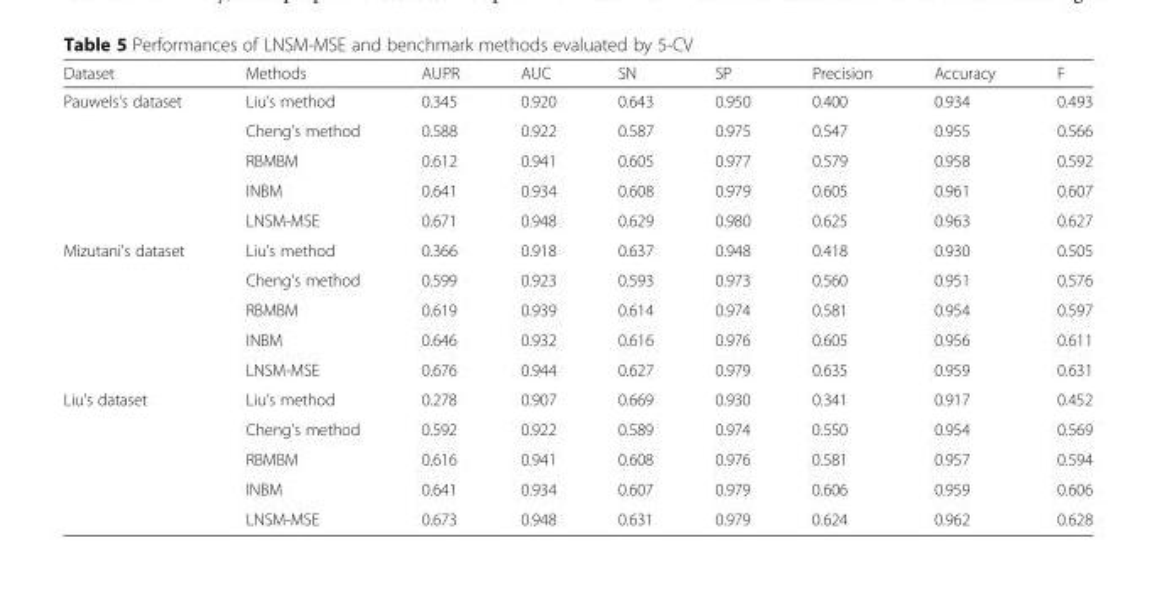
<table><thead><tr><td>Dataset</td><td>Methods</td><td>AUPR</td><td>AUC</td><td>SN</td><td>SP</td><td>Precision</td><td>Accuracy</td><td>F</td></tr></thead><tbody><tr><td rowspan="5">Pauwels’s dataset</td><td>Liu’s method</td><td>0.345</td><td>0.920</td><td>0.643</td><td>0.950</td><td>0.400</td><td>0.934</td><td>0.493</td></tr><tr><td>Cheng’s method</td><td>0.588</td><td>0.922</td><td>0.587</td><td>0.975</td><td>0.547</td><td>0.955</td><td>0.566</td></tr><tr><td>RBMBM</td><td>0.612</td><td>0.941</td><td>0.605</td><td>0.977</td><td>0.579</td><td>0.958</td><td>0.592</td></tr><tr><td>INBM</td><td>0.641</td><td>0.934</td><td>0.608</td><td>0.979</td><td>0.605</td><td>0.961</td><td>0.607</td></tr><tr><td>LNSM-MSE</td><td>0.671</td><td>0.948</td><td>0.629</td><td>0.980</td><td>0.625</td><td>0.963</td><td>0.627</td></tr><tr><td rowspan="5">Mizutani’s dataset</td><td>Liu’s method</td><td>0.366</td><td>0.918</td><td>0.637</td><td>0.948</td><td>0.418</td><td>0.930</td><td>0.505</td></tr><tr><td>Cheng’s method</td><td>0.599</td><td>0.923</td><td>0.593</td><td>0.973</td><td>0.560</td><td>0.951</td><td>0.576</td></tr><tr><td>RBMBM</td><td>0.619</td><td>0.939</td><td>0.614</td><td>0.974</td><td>0.581</td><td>0.954</td><td>0.597</td></tr><tr><td>INBM</td><td>0.646</td><td>0.932</td><td>0.616</td><td>0.976</td><td>0.605</td><td>0.956</td><td>0.611</td></tr><tr><td>LNSM-MSE</td><td>0.676</td><td>0.944</td><td>0.627</td><td>0.979</td><td>0.635</td><td>0.959</td><td>0.631</td></tr><tr><td rowspan="5">Liu’s dataset</td><td>Liu’s method</td><td>0.278</td><td>0.907</td><td>0.669</td><td>0.930</td><td>0.341</td><td>0.917</td><td>0.452</td></tr><tr><td>Cheng’s method</td><td>0.592</td><td>0.922</td><td>0.589</td><td>0.974</td><td>0.550</td><td>0.954</td><td>0.569</td></tr><tr><td>RBMBM</td><td>0.616</td><td>0.941</td><td>0.608</td><td>0.976</td><td>0.581</td><td>0.957</td><td>0.594</td></tr><tr><td>INBM</td><td>0.641</td><td>0.934</td><td>0.607</td><td>0.979</td><td>0.606</td><td>0.959</td><td>0.606</td></tr><tr><td>LNSM-MSE</td><td>0.673</td><td>0.948</td><td>0.631</td><td>0.979</td><td>0.624</td><td>0.962</td><td>0.628</td></tr></tbody></table>